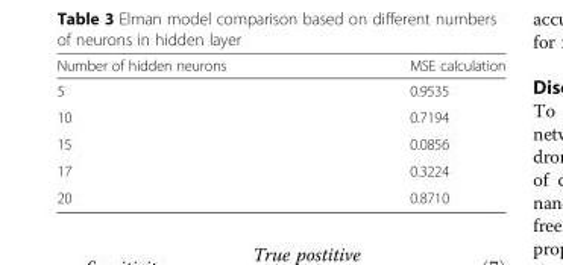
<table><thead><tr><td>Number of hidden neurons</td><td>MSE calculation</td></tr></thead><tbody><tr><td>5</td><td>0.9535</td></tr><tr><td>10</td><td>0.7194</td></tr><tr><td>15</td><td>0.0856</td></tr><tr><td>17</td><td>0.3224</td></tr><tr><td>20</td><td>0.8710</td></tr></tbody></table>